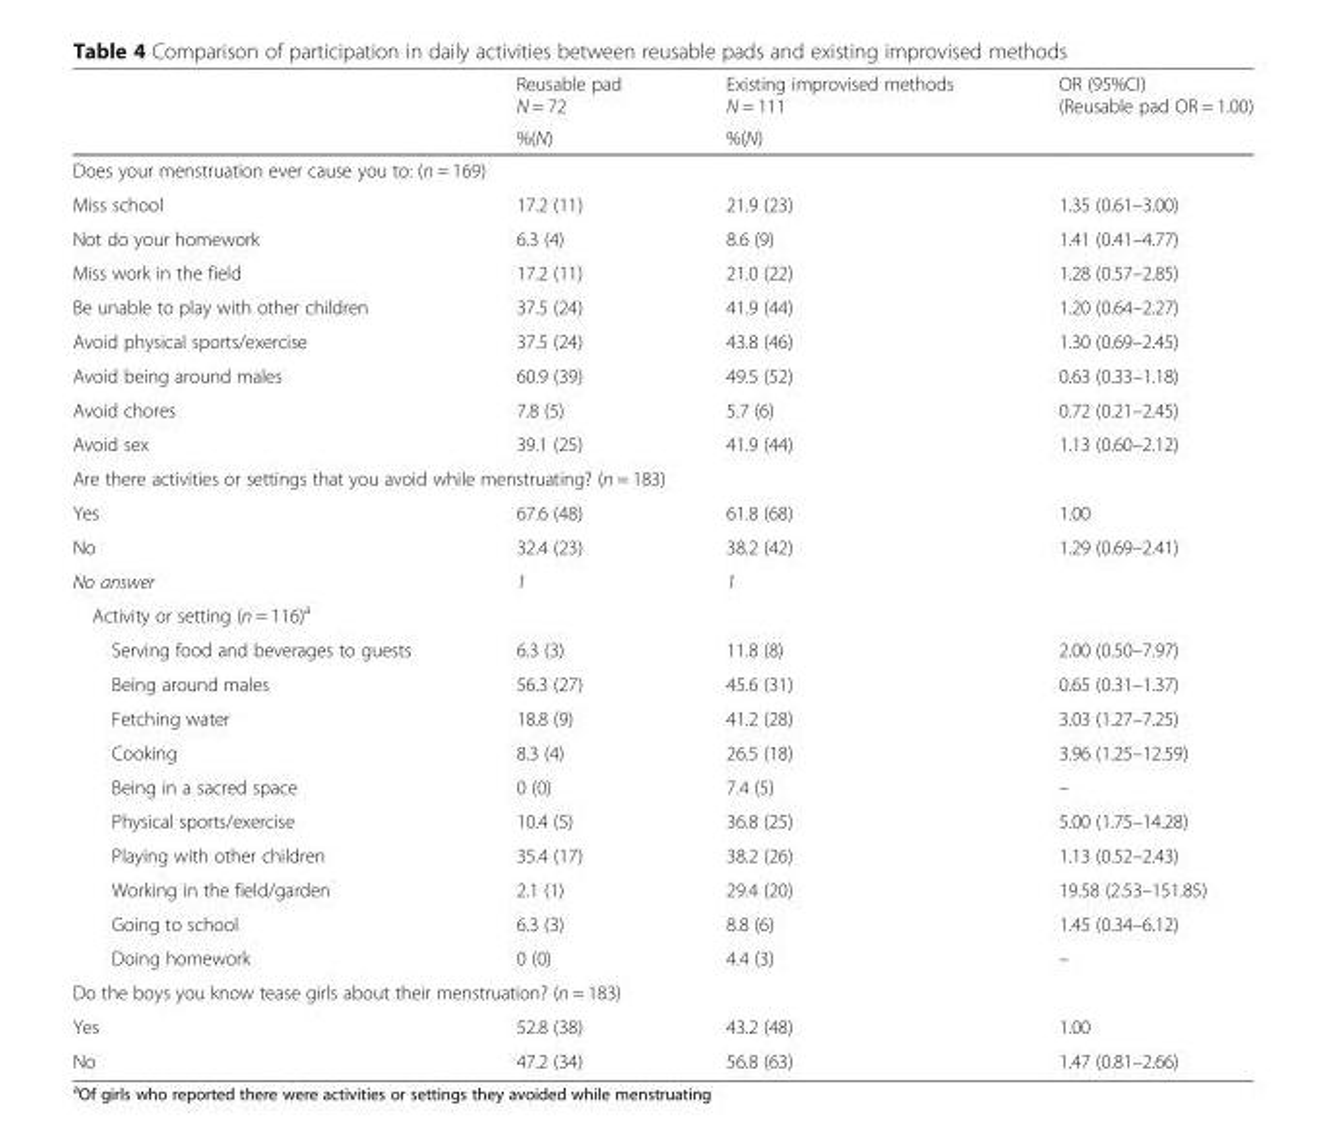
<table><thead><tr><td rowspan="2"></td><td rowspan="2">Reusable pad N = 72 %(N)</td><td rowspan="2">Existing improvised methods N = 111 %(N)</td><td rowspan="2">OR (95%CI) (Reusable pad OR = 1.00)</td></tr><tr></tr></thead><tbody><tr><td colspan="4">Does your menstruation ever cause you to: (n = 169)</td></tr><tr><td>Miss school</td><td>17.2 (11)</td><td>21.9 (23)</td><td>1.35 (0.61–3.00)</td></tr><tr><td>Not do your homework</td><td>6.3 (4)</td><td>8.6 (9)</td><td>1.41 (0.41–4.77)</td></tr><tr><td>Miss work in the field</td><td>17.2 (11)</td><td>21.0 (22)</td><td>1.28 (0.57–2.85)</td></tr><tr><td>Be unable to play with other children</td><td>37.5 (24)</td><td>41.9 (44)</td><td>1.20 (0.64–2.27)</td></tr><tr><td>Avoid physical sports/exercise</td><td>37.5 (24)</td><td>43.8 (46)</td><td>1.30 (0.69–2.45)</td></tr><tr><td>Avoid being around males</td><td>60.9 (39)</td><td>49.5 (52)</td><td>0.63 (0.33–1.18)</td></tr><tr><td>Avoid chores</td><td>7.8 (5)</td><td>5.7 (6)</td><td>0.72 (0.21–2.45)</td></tr><tr><td>Avoid sex</td><td>39.1 (25)</td><td>41.9 (44)</td><td>1.13 (0.60–2.12)</td></tr><tr><td colspan="4">Are there activities or settings that you avoid while menstruating? (n = 183)</td></tr><tr><td>Yes</td><td>67.6 (48)</td><td>61.8 (68)</td><td>1.00</td></tr><tr><td>No</td><td>32.4 (23)</td><td>38.2 (42)</td><td>1.29 (0.69–2.41)</td></tr><tr><td>No answer</td><td>1</td><td>1</td><td></td></tr><tr><td colspan="4">Activity or setting (n = 116)<sup>a</sup></td></tr><tr><td>Serving food and beverages to guests</td><td>6.3 (3)</td><td>11.8 (8)</td><td>2.00 (0.50–7.97)</td></tr><tr><td>Being around males</td><td>56.3 (27)</td><td>45.6 (31)</td><td>0.65 (0.31–1.37)</td></tr><tr><td>Fetching water</td><td>18.8 (9)</td><td>41.2 (28)</td><td>3.03 (1.27–7.25)</td></tr><tr><td>Cooking</td><td>8.3 (4)</td><td>26.5 (18)</td><td>3.96 (1.25–12.59)</td></tr><tr><td>Being in a sacred space</td><td>0 (0)</td><td>7.4 (5)</td><td>–</td></tr><tr><td>Physical sports/exercise</td><td>10.4 (5)</td><td>36.8 (25)</td><td>5.00 (1.75–14.28)</td></tr><tr><td>Playing with other children</td><td>35.4 (17)</td><td>38.2 (26)</td><td>1.13 (0.52–2.43)</td></tr><tr><td>Working in the field/garden</td><td>2.1 (1)</td><td>29.4 (20)</td><td>19.58 (2.53–151.85)</td></tr><tr><td>Going to school</td><td>6.3 (3)</td><td>8.8 (6)</td><td>1.45 (0.34–6.12)</td></tr><tr><td>Doing homework</td><td>0 (0)</td><td>4.4 (3)</td><td>–</td></tr><tr><td colspan="4">Do the boys you know tease girls about their menstruation? (n = 183)</td></tr><tr><td>Yes</td><td>52.8 (38)</td><td>43.2 (48)</td><td>1.00</td></tr><tr><td>No</td><td>47.2 (34)</td><td>56.8 (63)</td><td>1.47 (0.81–2.66)</td></tr></tbody></table>